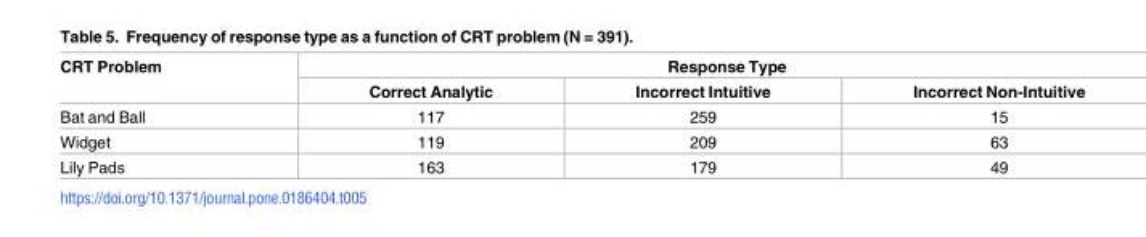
<table><thead><tr><td rowspan="2">CRT Problem</td><td colspan="3">Response Type</td></tr><tr><td>Correct Analytic</td><td>Incorrect Intuitive</td><td>Incorrect Non-Intuitive</td></tr></thead><tbody><tr><td>Bat and Ball</td><td>117</td><td>259</td><td>15</td></tr><tr><td>Widget</td><td>119</td><td>209</td><td>63</td></tr><tr><td>Lily Pads</td><td>163</td><td>179</td><td>49</td></tr></tbody></table>